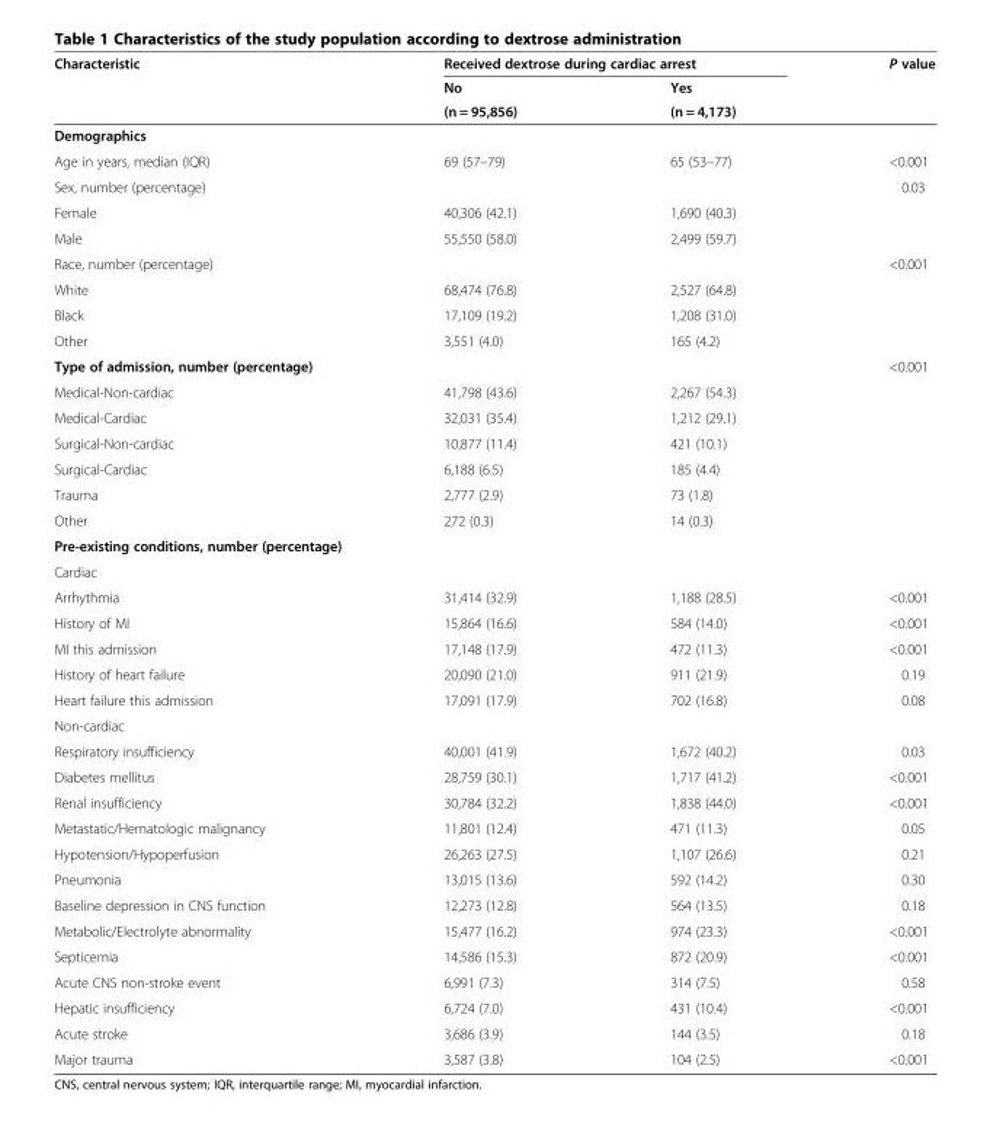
<table><thead><tr><td rowspan="3">Characteristic</td><td colspan="2">Received dextrose during cardiac arrest</td><td rowspan="3">P value</td></tr><tr><td rowspan="2">No (n = 95,856)</td><td rowspan="2">Yes (n = 4,173)</td></tr><tr></tr></thead><tbody><tr><td colspan="4">Demographics</td></tr><tr><td>Age in years, median (IQR)</td><td>69 (57–79)</td><td>65 (53–77)</td><td>&lt;0.001</td></tr><tr><td>Sex, number (percentage)</td><td></td><td></td><td>0.03</td></tr><tr><td>Female</td><td>40,306 (42.1)</td><td>1,690 (40.3)</td><td></td></tr><tr><td>Male</td><td>55,550 (58.0)</td><td>2,499 (59.7)</td><td></td></tr><tr><td>Race, number (percentage)</td><td></td><td></td><td>&lt;0.001</td></tr><tr><td>White</td><td>68,474 (76.8)</td><td>2,527 (64.8)</td><td></td></tr><tr><td>Black</td><td>17,109 (19.2)</td><td>1,208 (31.0)</td><td></td></tr><tr><td>Other</td><td>3,551 (4.0)</td><td>165 (4.2)</td><td></td></tr><tr><td>Type of admission, number (percentage)</td><td></td><td></td><td>&lt;0.001</td></tr><tr><td>Medical-Non-cardiac</td><td>41,798 (43.6)</td><td>2,267 (54.3)</td><td></td></tr><tr><td>Medical-Cardiac</td><td>32,031 (35.4)</td><td>1,212 (29.1)</td><td></td></tr><tr><td>Surgical-Non-cardiac</td><td>10,877 (11.4)</td><td>421 (10.1)</td><td></td></tr><tr><td>Surgical-Cardiac</td><td>6,188 (6.5)</td><td>185 (4.4)</td><td></td></tr><tr><td>Trauma</td><td>2,777 (2.9)</td><td>73 (1.8)</td><td></td></tr><tr><td>Other</td><td>272 (0.3)</td><td>14 (0.3)</td><td></td></tr><tr><td colspan="4">Pre-existing conditions, number (percentage)</td></tr><tr><td colspan="4">Cardiac</td></tr><tr><td>Arrhythmia</td><td>31,414 (32.9)</td><td>1,188 (28.5)</td><td>&lt;0.001</td></tr><tr><td>History of MI</td><td>15,864 (16.6)</td><td>584 (14.0)</td><td>&lt;0.001</td></tr><tr><td>MI this admission</td><td>17,148 (17.9)</td><td>472 (11.3)</td><td>&lt;0.001</td></tr><tr><td>History of heart failure</td><td>20,090 (21.0)</td><td>911 (21.9)</td><td>0.19</td></tr><tr><td>Heart failure this admission</td><td>17,091 (17.9)</td><td>702 (16.8)</td><td>0.08</td></tr><tr><td colspan="4">Non-cardiac</td></tr><tr><td>Respiratory insufficiency</td><td>40,001 (41.9)</td><td>1,672 (40.2)</td><td>0.03</td></tr><tr><td>Diabetes mellitus</td><td>28,759 (30.1)</td><td>1,717 (41.2)</td><td>&lt;0.001</td></tr><tr><td>Renal insufficiency</td><td>30,784 (32.2)</td><td>1,838 (44.0)</td><td>&lt;0.001</td></tr><tr><td>Metastatic/Hematologic malignancy</td><td>11,801 (12.4)</td><td>471 (11.3)</td><td>0.05</td></tr><tr><td>Hypotension/Hypoperfusion</td><td>26,263 (27.5)</td><td>1,107 (26.6)</td><td>0.21</td></tr><tr><td>Pneumonia</td><td>13,015 (13.6)</td><td>592 (14.2)</td><td>0.30</td></tr><tr><td>Baseline depression in CNS function</td><td>12,273 (12.8)</td><td>564 (13.5)</td><td>0.18</td></tr><tr><td>Metabolic/Electrolyte abnormality</td><td>15,477 (16.2)</td><td>974 (23.3)</td><td>&lt;0.001</td></tr><tr><td>Septicemia</td><td>14,586 (15.3)</td><td>872 (20.9)</td><td>&lt;0.001</td></tr><tr><td>Acute CNS non-stroke event</td><td>6,991 (7.3)</td><td>314 (7.5)</td><td>0.58</td></tr><tr><td>Hepatic insufficiency</td><td>6,724 (7.0)</td><td>431 (10.4)</td><td>&lt;0.001</td></tr><tr><td>Acute stroke</td><td>3,686 (3.9)</td><td>144 (3.5)</td><td>0.18</td></tr><tr><td>Major trauma</td><td>3,587 (3.8)</td><td>104 (2.5)</td><td>&lt;0.001</td></tr></tbody></table>